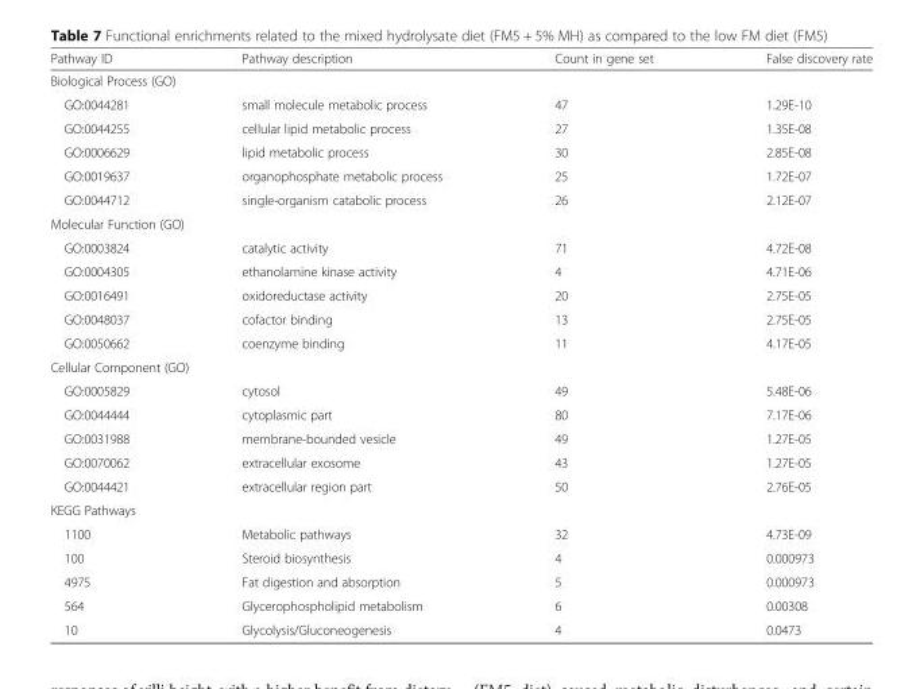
<table><thead><tr><td>Pathway ID</td><td>Pathway description</td><td>Count in gene set</td><td>False discovery rate</td></tr></thead><tbody><tr><td colspan="4">Biological Process (GO)</td></tr><tr><td>GO:0044281</td><td>small molecule metabolic process</td><td>47</td><td>1.29E-10</td></tr><tr><td>GO:0044255</td><td>cellular lipid metabolic process</td><td>27</td><td>1.35E-08</td></tr><tr><td>GO:0006629</td><td>lipid metabolic process</td><td>30</td><td>2.85E-08</td></tr><tr><td>GO:0019637</td><td>organophosphate metabolic process</td><td>25</td><td>1.72E-07</td></tr><tr><td>GO:0044712</td><td>single-organism catabolic process</td><td>26</td><td>2.12E-07</td></tr><tr><td colspan="4">Molecular Function (GO)</td></tr><tr><td>GO:0003824</td><td>catalytic activity</td><td>71</td><td>4.72E-08</td></tr><tr><td>GO:0004305</td><td>ethanolamine kinase activity</td><td>4</td><td>4.71E-06</td></tr><tr><td>GO:0016491</td><td>oxidoreductase activity</td><td>20</td><td>2.75E-05</td></tr><tr><td>GO:0048037</td><td>cofactor binding</td><td>13</td><td>2.75E-05</td></tr><tr><td>GO:0050662</td><td>coenzyme binding</td><td>11</td><td>4.17E-05</td></tr><tr><td colspan="4">Cellular Component (GO)</td></tr><tr><td>GO:0005829</td><td>cytosol</td><td>49</td><td>5.48E-06</td></tr><tr><td>GO:0044444</td><td>cytoplasmic part</td><td>80</td><td>7.17E-06</td></tr><tr><td>GO:0031988</td><td>membrane-bounded vesicle</td><td>49</td><td>1.27E-05</td></tr><tr><td>GO:0070062</td><td>extracellular exosome</td><td>43</td><td>1.27E-05</td></tr><tr><td>GO:0044421</td><td>extracellular region part</td><td>50</td><td>2.76E-05</td></tr><tr><td colspan="4">KEGG Pathways</td></tr><tr><td>1100</td><td>Metabolic pathways</td><td>32</td><td>4.73E-09</td></tr><tr><td>100</td><td>Steroid biosynthesis</td><td>4</td><td>0.000973</td></tr><tr><td>4975</td><td>Fat digestion and absorption</td><td>5</td><td>0.000973</td></tr><tr><td>564</td><td>Glycerophospholipid metabolism</td><td>6</td><td>0.00308</td></tr><tr><td>10</td><td>Glycolysis/Gluconeogenesis</td><td>4</td><td>0.0473</td></tr></tbody></table>